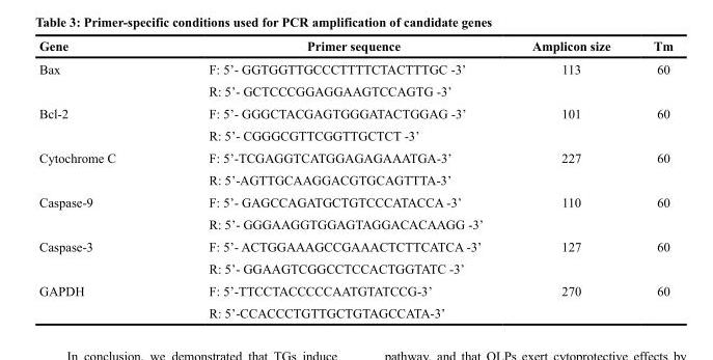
<table><thead><tr><td>Gene</td><td>Primer sequence</td><td>Amplicon size</td><td>Tm</td></tr></thead><tbody><tr><td rowspan="2">Bax</td><td>F: 5’- GGTGGTTGCCCTTTTCTACTTTGC -3’</td><td>113</td><td>60</td></tr><tr><td>R: 5’- GCTCCCGGAGGAAGTCCAGTG -3’</td><td></td><td></td></tr><tr><td rowspan="2">Bcl-2</td><td>F: 5’- GGGCTACGAGTGGGATACTGGAG -3’</td><td>101</td><td>60</td></tr><tr><td>R: 5’- CGGGCGTTCGGTTGCTCT -3’</td><td></td><td></td></tr><tr><td rowspan="2">Cytochrome C</td><td>F: 5’-TCGAGGTCATGGAGAGAAATGA-3’</td><td>227</td><td>60</td></tr><tr><td>R: 5’-AGTTGCAAGGACGTGCAGTTTA-3’</td><td></td><td></td></tr><tr><td rowspan="2">Caspase-9</td><td>F: 5’- GAGCCAGATGCTGTCCCATACCA -3’</td><td>110</td><td>60</td></tr><tr><td>R: 5’- GGGAAGGTGGAGTAGGACACAAGG -3’</td><td></td><td></td></tr><tr><td rowspan="2">Caspase-3</td><td>F: 5’- ACTGGAAAGCCGAAACTCTTCATCA -3’</td><td>127</td><td>60</td></tr><tr><td>R: 5’- GGAAGTCGGCCTCCACTGGTATC -3’</td><td></td><td></td></tr><tr><td rowspan="2">GAPDH</td><td>F: 5’-TTCCTACCCCCAATGTATCCG-3’</td><td>270</td><td>60</td></tr><tr><td>R: 5’-CCACCCTGTTGCTGTAGCCATA-3’</td><td></td><td></td></tr></tbody></table>